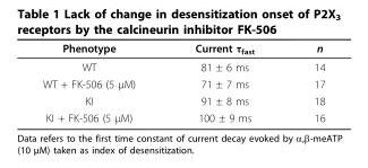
<table><thead><tr><td>Phenotype</td><td>Current τ<sub>fast</sub></td><td>n</td></tr></thead><tbody><tr><td>WT</td><td>81 ± 6 ms</td><td>14</td></tr><tr><td>WT + FK-506 (5 μM)</td><td>71 ± 7 ms</td><td>17</td></tr><tr><td>KI</td><td>91 ± 8 ms</td><td>18</td></tr><tr><td>KI + FK-506 (5 μM)</td><td>100 ± 9 ms</td><td>16</td></tr></tbody></table>